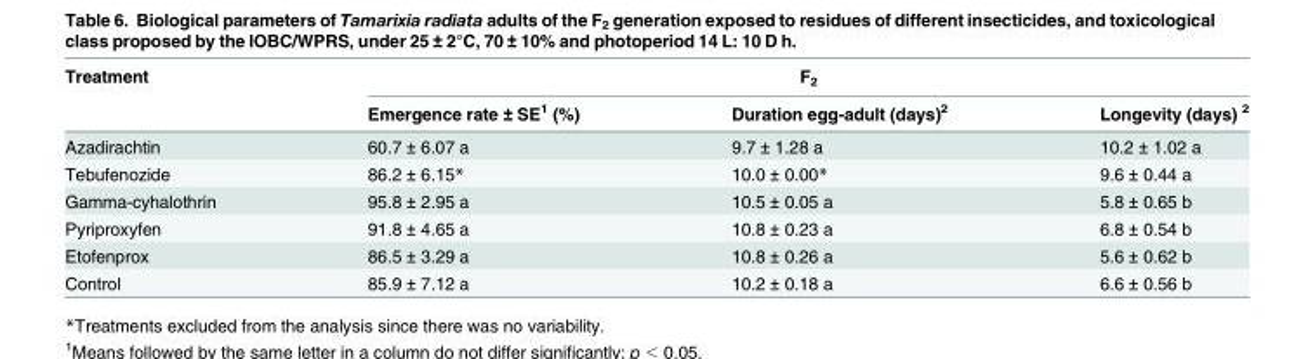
<table><thead><tr><td rowspan="2">Treatment</td><td colspan="3">F<sub>2</sub></td></tr><tr><td>Emergence rate ± SE<sup>1</sup> (%)</td><td>Duration egg-adult (days)<sup>2</sup></td><td>Longevity (days) <sup>2</sup></td></tr></thead><tbody><tr><td>Azadirachtin</td><td>60.7 ± 6.07 a</td><td>9.7 ± 1.28 a</td><td>10.2 ± 1.02 a</td></tr><tr><td>Tebufenozide</td><td>86.2 ± 6.15*</td><td>10.0 ± 0.00*</td><td>9.6 ± 0.44 a</td></tr><tr><td>Gamma-cyhalothrin</td><td>95.8 ± 2.95 a</td><td>10.5 ± 0.05 a</td><td>5.8 ± 0.65 b</td></tr><tr><td>Pyriproxyfen</td><td>91.8 ± 4.65 a</td><td>10.8 ± 0.23 a</td><td>6.8 ± 0.54 b</td></tr><tr><td>Etofenprox</td><td>86.5 ± 3.29 a</td><td>10.8 ± 0.26 a</td><td>5.6 ± 0.62 b</td></tr><tr><td>Control</td><td>85.9 ± 7.12 a</td><td>10.2 ± 0.18 a</td><td>6.6 ± 0.56 b</td></tr></tbody></table>